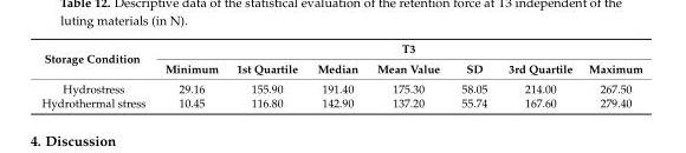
<table><thead><tr><td rowspan="2">Storage Condition</td><td rowspan="2">Minimum</td><td rowspan="2">1st Quartile</td><td rowspan="2">Median</td><td rowspan="2">T3 Mean Value</td><td rowspan="2">SD</td><td rowspan="2">3rd Quartile</td><td rowspan="2">Maximum</td></tr><tr></tr></thead><tbody><tr><td>Hydrostress</td><td>29.16</td><td>155.90</td><td>191.40</td><td>175.30</td><td>58.05</td><td>214.00</td><td>267.50</td></tr><tr><td>Hydrothermal stress</td><td>10.45</td><td>116.80</td><td>142.90</td><td>137.20</td><td>55.74</td><td>167.60</td><td>279.40</td></tr></tbody></table>